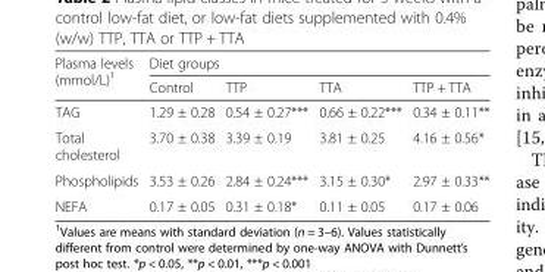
<table><thead><tr><td rowspan="2">Plasma levels (mmol/L)<sup>1</sup></td><td colspan="4">Diet groups</td></tr><tr><td>Control</td><td>TTP</td><td>TTA</td><td>TTP + TTA</td></tr></thead><tbody><tr><td>TAG</td><td>1.29 ± 0.28</td><td>0.54 ± 0.27***</td><td>0.66 ± 0.22***</td><td>0.34 ± 0.11**</td></tr><tr><td>Total cholesterol</td><td>3.70 ± 0.38</td><td>3.39 ± 0.19</td><td>3.81 ± 0.25</td><td>4.16 ± 0.56*</td></tr><tr><td>Phospholipids</td><td>3.53 ± 0.26</td><td>2.84 ± 0.24***</td><td>3.15 ± 0.30*</td><td>2.97 ± 0.33**</td></tr><tr><td>NEFA</td><td>0.17 ± 0.05</td><td>0.31 ± 0.18*</td><td>0.11 ± 0.05</td><td>0.17 ± 0.06</td></tr></tbody></table>